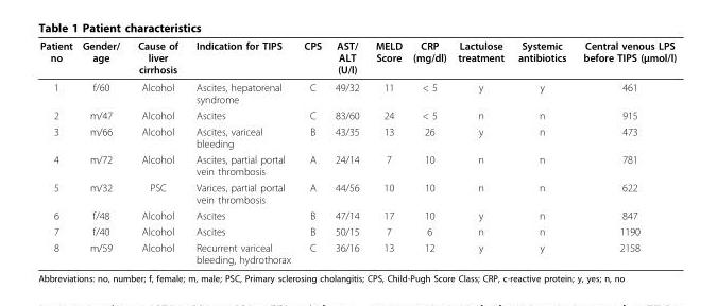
<table><thead><tr><td>Patient no</td><td>Gender/ age</td><td>Cause of liver cirrhosis</td><td>Indication for TIPS</td><td>CPS</td><td>AST/ ALT (U/l)</td><td>MELD Score</td><td>CRP (mg/dl)</td><td>Lactulose treatment</td><td>Systemic antibiotics</td><td>Central venous LPS before TIPS (μmol/l)</td></tr></thead><tbody><tr><td>1</td><td>f/60</td><td>Alcohol</td><td>Ascites, hepatorenal syndrome</td><td>C</td><td>49/32</td><td>11</td><td>&lt; 5</td><td>y</td><td>y</td><td>461</td></tr><tr><td>2</td><td>m/47</td><td>Alcohol</td><td>Ascites</td><td>C</td><td>83/60</td><td>24</td><td>&lt; 5</td><td>n</td><td>n</td><td>915</td></tr><tr><td>3</td><td>m/66</td><td>Alcohol</td><td>Ascites, variceal bleeding</td><td>B</td><td>43/35</td><td>13</td><td>26</td><td>y</td><td>n</td><td>473</td></tr><tr><td>4</td><td>m/72</td><td>Alcohol</td><td>Ascites, partial portal vein thrombosis</td><td>A</td><td>24/14</td><td>7</td><td>10</td><td>n</td><td>n</td><td>781</td></tr><tr><td>5</td><td>m/32</td><td>PSC</td><td>Varices, partial portal vein thrombosis</td><td>A</td><td>44/56</td><td>10</td><td>10</td><td>n</td><td>n</td><td>622</td></tr><tr><td>6</td><td>f/48</td><td>Alcohol</td><td>Ascites</td><td>B</td><td>47/14</td><td>17</td><td>10</td><td>y</td><td>n</td><td>847</td></tr><tr><td>7</td><td>f/40</td><td>Alcohol</td><td>Ascites</td><td>B</td><td>50/15</td><td>7</td><td>6</td><td>n</td><td>n</td><td>1190</td></tr><tr><td>8</td><td>m/59</td><td>Alcohol</td><td>Recurrent variceal bleeding, hydrothorax</td><td>C</td><td>36/16</td><td>13</td><td>12</td><td>y</td><td>y</td><td>2158</td></tr></tbody></table>